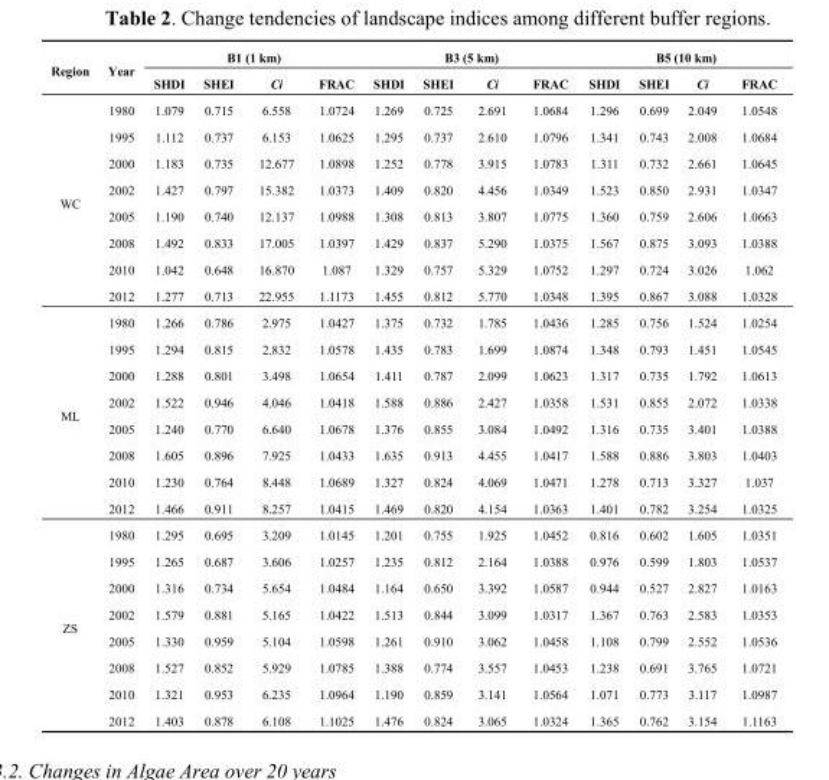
<table><thead><tr><td rowspan="2">Region</td><td rowspan="2">Year</td><td colspan="4">B1 (1 km)</td><td colspan="4">B3 (5 km)</td><td colspan="4">B5 (10 km)</td></tr><tr><td>SHDI</td><td>SHEI</td><td>Ci</td><td>FRAC</td><td>SHDI</td><td>SHEI</td><td>Ci</td><td>FRAC</td><td>SHDI</td><td>SHEI</td><td>Ci</td><td>FRAC</td></tr></thead><tbody><tr><td rowspan="8">WC</td><td>1980</td><td>1.079</td><td>0.715</td><td>6.558</td><td>1.0724</td><td>1.269</td><td>0.725</td><td>2.691</td><td>1.0684</td><td>1.296</td><td>0.699</td><td>2.049</td><td>1.0548</td></tr><tr><td>1995</td><td>1.112</td><td>0.737</td><td>6.153</td><td>1.0625</td><td>1.295</td><td>0.737</td><td>2.610</td><td>1.0796</td><td>1.341</td><td>0.743</td><td>2.008</td><td>1.0684</td></tr><tr><td>2000</td><td>1.183</td><td>0.735</td><td>12.677</td><td>1.0898</td><td>1.252</td><td>0.778</td><td>3.915</td><td>1.0783</td><td>1.311</td><td>0.732</td><td>2.661</td><td>1.0645</td></tr><tr><td>2002</td><td>1.427</td><td>0.797</td><td>15.382</td><td>1.0373</td><td>1.409</td><td>0.820</td><td>4.456</td><td>1.0349</td><td>1.523</td><td>0.850</td><td>2.931</td><td>1.0347</td></tr><tr><td>2005</td><td>1.190</td><td>0.740</td><td>12.137</td><td>1.0988</td><td>1.308</td><td>0.813</td><td>3.807</td><td>1.0775</td><td>1.360</td><td>0.759</td><td>2.606</td><td>1.0663</td></tr><tr><td>2008</td><td>1.492</td><td>0.833</td><td>17.005</td><td>1.0397</td><td>1.429</td><td>0.837</td><td>5.290</td><td>1.0375</td><td>1.567</td><td>0.875</td><td>3.093</td><td>1.0388</td></tr><tr><td>2010</td><td>1.042</td><td>0.648</td><td>16.870</td><td>1.087</td><td>1.329</td><td>0.757</td><td>5.329</td><td>1.0752</td><td>1.297</td><td>0.724</td><td>3.026</td><td>1.062</td></tr><tr><td>2012</td><td>1.277</td><td>0.713</td><td>22.955</td><td>1.1173</td><td>1.455</td><td>0.812</td><td>5.770</td><td>1.0348</td><td>1.395</td><td>0.867</td><td>3.088</td><td>1.0328</td></tr><tr><td rowspan="8">ML</td><td>1980</td><td>1.266</td><td>0.786</td><td>2.975</td><td>1.0427</td><td>1.375</td><td>0.732</td><td>1.785</td><td>1.0436</td><td>1.285</td><td>0.756</td><td>1.524</td><td>1.0254</td></tr><tr><td>1995</td><td>1.294</td><td>0.815</td><td>2.832</td><td>1.0578</td><td>1.435</td><td>0.783</td><td>1.699</td><td>1.0874</td><td>1.348</td><td>0.793</td><td>1.451</td><td>1.0545</td></tr><tr><td>2000</td><td>1.288</td><td>0.801</td><td>3.498</td><td>1.0654</td><td>1.411</td><td>0.787</td><td>2.099</td><td>1.0623</td><td>1.317</td><td>0.735</td><td>1.792</td><td>1.0613</td></tr><tr><td>2002</td><td>1.522</td><td>0.946</td><td>4.046</td><td>1.0418</td><td>1.588</td><td>0.886</td><td>2.427</td><td>1.0358</td><td>1.531</td><td>0.855</td><td>2.072</td><td>1.0338</td></tr><tr><td>2005</td><td>1.240</td><td>0.770</td><td>6.640</td><td>1.0678</td><td>1.376</td><td>0.855</td><td>3.084</td><td>1.0492</td><td>1.316</td><td>0.735</td><td>3.401</td><td>1.0388</td></tr><tr><td>2008</td><td>1.605</td><td>0.896</td><td>7.925</td><td>1.0433</td><td>1.635</td><td>0.913</td><td>4.455</td><td>1.0417</td><td>1.588</td><td>0.886</td><td>3.803</td><td>1.0403</td></tr><tr><td>2010</td><td>1.230</td><td>0.764</td><td>8.448</td><td>1.0689</td><td>1.327</td><td>0.824</td><td>4.069</td><td>1.0471</td><td>1.278</td><td>0.713</td><td>3.327</td><td>1.037</td></tr><tr><td>2012</td><td>1.466</td><td>0.911</td><td>8.257</td><td>1.0415</td><td>1.469</td><td>0.820</td><td>4.154</td><td>1.0363</td><td>1.401</td><td>0.782</td><td>3.254</td><td>1.0325</td></tr><tr><td rowspan="8">ZS</td><td>1980</td><td>1.295</td><td>0.695</td><td>3.209</td><td>1.0145</td><td>1.201</td><td>0.755</td><td>1.925</td><td>1.0452</td><td>0.816</td><td>0.602</td><td>1.605</td><td>1.0351</td></tr><tr><td>1995</td><td>1.265</td><td>0.687</td><td>3.606</td><td>1.0257</td><td>1.235</td><td>0.812</td><td>2.164</td><td>1.0388</td><td>0.976</td><td>0.599</td><td>1.803</td><td>1.0537</td></tr><tr><td>2000</td><td>1.316</td><td>0.734</td><td>5.654</td><td>1.0484</td><td>1.164</td><td>0.650</td><td>3.392</td><td>1.0587</td><td>0.944</td><td>0.527</td><td>2.827</td><td>1.0163</td></tr><tr><td>2002</td><td>1.579</td><td>0.881</td><td>5.165</td><td>1.0422</td><td>1.513</td><td>0.844</td><td>3.099</td><td>1.0317</td><td>1.367</td><td>0.763</td><td>2.583</td><td>1.0353</td></tr><tr><td>2005</td><td>1.330</td><td>0.959</td><td>5.104</td><td>1.0598</td><td>1.261</td><td>0.910</td><td>3.062</td><td>1.0458</td><td>1.108</td><td>0.799</td><td>2.552</td><td>1.0536</td></tr><tr><td>2008</td><td>1.527</td><td>0.852</td><td>5.929</td><td>1.0785</td><td>1.388</td><td>0.774</td><td>3.557</td><td>1.0453</td><td>1.238</td><td>0.691</td><td>3.765</td><td>1.0721</td></tr><tr><td>2010</td><td>1.321</td><td>0.953</td><td>6.235</td><td>1.0964</td><td>1.190</td><td>0.859</td><td>3.141</td><td>1.0564</td><td>1.071</td><td>0.773</td><td>3.117</td><td>1.0987</td></tr><tr><td>2012</td><td>1.403</td><td>0.878</td><td>6.108</td><td>1.1025</td><td>1.476</td><td>0.824</td><td>3.065</td><td>1.0324</td><td>1.365</td><td>0.762</td><td>3.154</td><td>1.1163</td></tr></tbody></table>